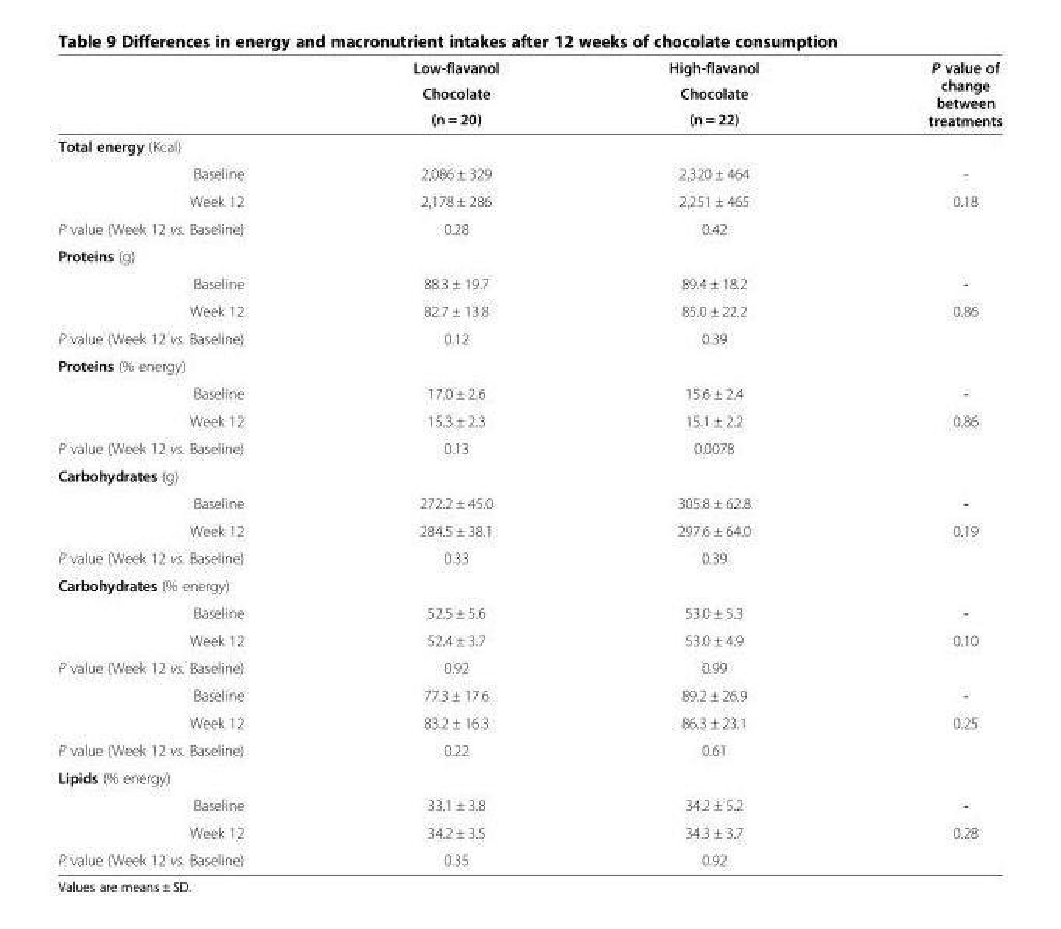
<table><thead><tr><td rowspan="3"></td><td rowspan="3">Low-flavanol Chocolate (n = 20)</td><td rowspan="3">High-flavanol Chocolate (n = 22)</td><td rowspan="3">P value of change between treatments</td></tr><tr></tr><tr></tr></thead><tbody><tr><td colspan="4">Total energy (Kcal)</td></tr><tr><td>Baseline</td><td>2,086 ± 329</td><td>2,320 ± 464</td><td>-</td></tr><tr><td>Week 12</td><td>2,178 ± 286</td><td>2,251 ± 465</td><td>0.18</td></tr><tr><td>P value (Week 12 vs. Baseline)</td><td>0.28</td><td>0.42</td><td></td></tr><tr><td colspan="4">Proteins (g)</td></tr><tr><td>Baseline</td><td>88.3 ± 19.7</td><td>89.4 ± 18.2</td><td>-</td></tr><tr><td>Week 12</td><td>82.7 ± 13.8</td><td>85.0 ± 22.2</td><td>0.86</td></tr><tr><td>P value (Week 12 vs. Baseline)</td><td>0.12</td><td>0.39</td><td></td></tr><tr><td colspan="4">Proteins (% energy)</td></tr><tr><td>Baseline</td><td>17.0 ± 2.6</td><td>15.6 ± 2.4</td><td>-</td></tr><tr><td>Week 12</td><td>15.3 ± 2.3</td><td>15.1 ± 2.2</td><td>0.86</td></tr><tr><td>P value (Week 12 vs. Baseline)</td><td>0.13</td><td>0.0078</td><td></td></tr><tr><td colspan="4">Carbohydrates (g)</td></tr><tr><td>Baseline</td><td>272.2 ± 45.0</td><td>305.8 ± 62.8</td><td>-</td></tr><tr><td>Week 12</td><td>284.5 ± 38.1</td><td>297.6 ± 64.0</td><td>0.19</td></tr><tr><td>P value (Week 12 vs. Baseline)</td><td>0.33</td><td>0.39</td><td></td></tr><tr><td colspan="4">Carbohydrates (% energy)</td></tr><tr><td>Baseline</td><td>52.5 ± 5.6</td><td>53.0 ± 5.3</td><td>-</td></tr><tr><td>Week 12</td><td>52.4 ± 3.7</td><td>53.0 ± 4.9</td><td>0.10</td></tr><tr><td>P value (Week 12 vs. Baseline)</td><td>0.92</td><td>0.99</td><td></td></tr><tr><td>Baseline</td><td>77.3 ± 17.6</td><td>89.2 ± 26.9</td><td>-</td></tr><tr><td>Week 12</td><td>83.2 ± 16.3</td><td>86.3 ± 23.1</td><td>0.25</td></tr><tr><td>P value (Week 12 vs. Baseline)</td><td>0.22</td><td>0.61</td><td></td></tr><tr><td colspan="4">Lipids (% energy)</td></tr><tr><td>Baseline</td><td>33.1 ± 3.8</td><td>34.2 ± 5.2</td><td>-</td></tr><tr><td>Week 12</td><td>34.2 ± 3.5</td><td>34.3 ± 3.7</td><td>0.28</td></tr><tr><td>P value (Week 12 vs. Baseline)</td><td>0.35</td><td>0.92</td><td></td></tr></tbody></table>